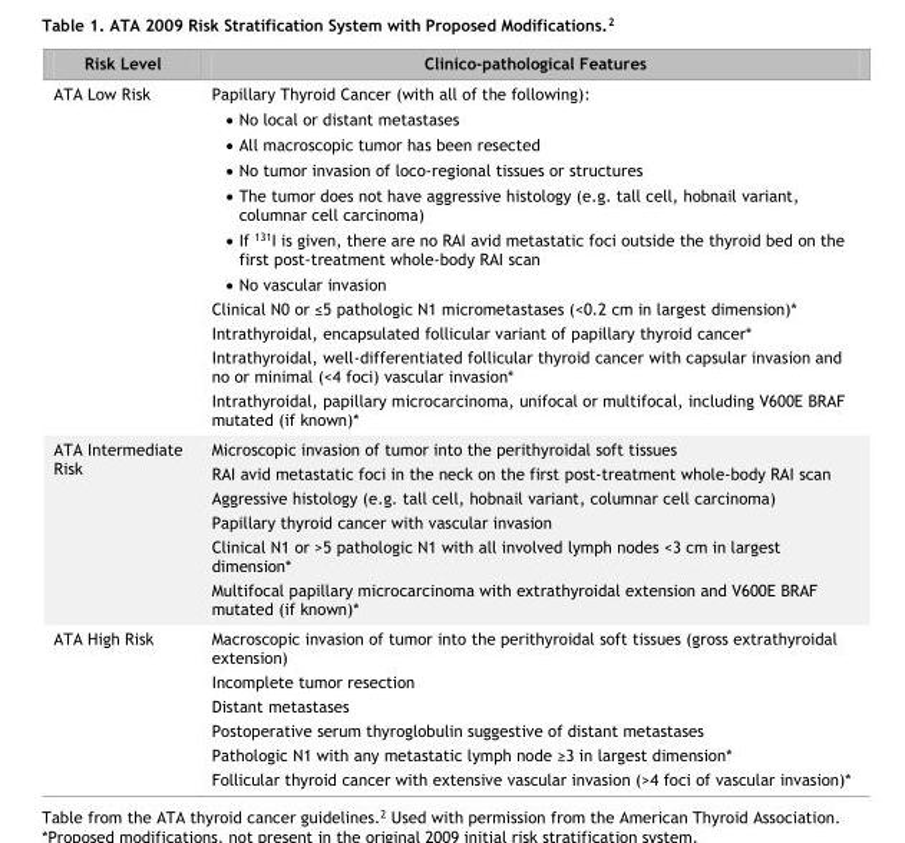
<table><thead><tr><td>Risk Level</td><td>Clinico-pathological Features</td></tr></thead><tbody><tr><td>ATA Low Risk</td><td>Papillary Thyroid Cancer (with all of the following):  No local or distant metastases  All macroscopic tumor has been resected  No tumor invasion of loco-regional tissues or structures  The tumor does not have aggressive histology (e.g. tall cell, hobnail variant, columnar cell carcinoma)  If 131I is given, there are no RAI avid metastatic foci outside the thyroid bed on the first post-treatment whole-body RAI scan  No vascular invasion Clinical N0 or ≤5 pathologic N1 micrometastases (&lt;0.2 cm in largest dimension)* Intrathyroidal, encapsulated follicular variant of papillary thyroid cancer* Intrathyroidal, well-differentiated follicular thyroid cancer with capsular invasion and no or minimal (&lt;4 foci) vascular invasion* Intrathyroidal, papillary microcarcinoma, unifocal or multifocal, including V600E BRAF mutated (if known)*</td></tr><tr><td>ATA Intermediate Risk</td><td>Microscopic invasion of tumor into the perithyroidal soft tissues RAI avid metastatic foci in the neck on the first post-treatment whole-body RAI scan Aggressive histology (e.g. tall cell, hobnail variant, columnar cell carcinoma) Papillary thyroid cancer with vascular invasion Clinical N1 or &gt;5 pathologic N1 with all involved lymph nodes &lt;3 cm in largest dimension* Multifocal papillary microcarcinoma with extrathyroidal extension and V600E BRAF mutated (if known)*</td></tr><tr><td>ATA High Risk</td><td>Macroscopic invasion of tumor into the perithyroidal soft tissues (gross extrathyroidal extension) Incomplete tumor resection Distant metastases Postoperative serum thyroglobulin suggestive of distant metastases Pathologic N1 with any metastatic lymph node ≥3 in largest dimension* Follicular thyroid cancer with extensive vascular invasion (&gt;4 foci of vascular invasion)*</td></tr></tbody></table>